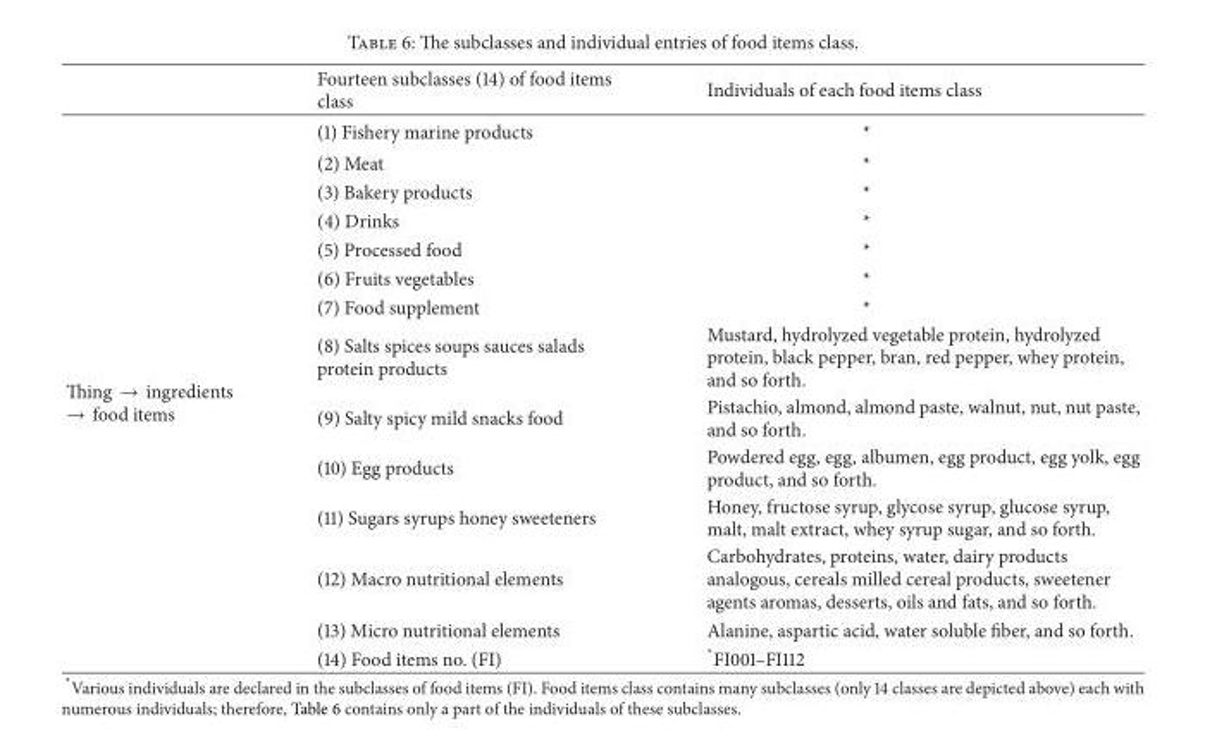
<table><thead><tr><td></td><td>Fourteen subclasses (14) of food items class</td><td>Individuals of each food items class</td></tr></thead><tbody><tr><td rowspan="14">Thing → ingredients → food items</td><td>(1) Fishery marine products</td><td>*</td></tr><tr><td>(2) Meat</td><td>*</td></tr><tr><td>(3) Bakery products</td><td>*</td></tr><tr><td>(4) Drinks</td><td>*</td></tr><tr><td>(5) Processed food</td><td>*</td></tr><tr><td>(6) Fruits vegetables</td><td>*</td></tr><tr><td>(7) Food supplement</td><td>*</td></tr><tr><td>(8) Salts spices soups sauces salads protein products</td><td>Mustard, hydrolyzed vegetable protein, hydrolyzed protein, black pepper, bran, red pepper, whey protein, and so forth.</td></tr><tr><td>(9) Salty spicy mild snacks food</td><td>Pistachio, almond, almond paste, walnut, nut, nut paste, and so forth.</td></tr><tr><td>(10) Egg products</td><td>Powdered egg, egg, albumen, egg product, egg yolk, egg product, and so forth.</td></tr><tr><td>(11) Sugars syrups honey sweeteners</td><td>Honey, fructose syrup, glycose syrup, glucose syrup, malt, malt extract, whey syrup sugar, and so forth.</td></tr><tr><td>(12) Macro nutritional elements</td><td>Carbohydrates, proteins, water, dairy products analogous, cereals milled cereal products, sweetener agents aromas, desserts, oils and fats, and so forth.</td></tr><tr><td>(13) Micro nutritional elements</td><td>Alanine, aspartic acid, water soluble fiber, and so forth.</td></tr><tr><td>(14) Food items no. (FI)</td><td>*FI001–FI112</td></tr></tbody></table>